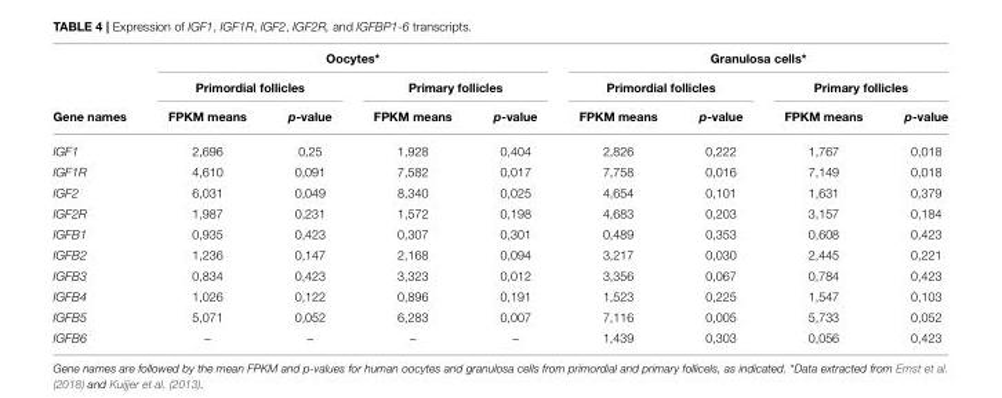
<table><thead><tr><td rowspan="3">Gene names</td><td colspan="4">Oocytes*</td><td colspan="4">Granulosa cells*</td></tr><tr><td colspan="2">Primordial follicles</td><td colspan="2">Primary follicles</td><td colspan="2">Primordial follicles</td><td colspan="2">Primary follicles</td></tr><tr><td>FPKM means</td><td>p-value</td><td>FPKM means</td><td>p-value</td><td>FPKM means</td><td>p-value</td><td>FPKM means</td><td>p-value</td></tr></thead><tbody><tr><td>IGF1</td><td>2,696</td><td>0,25</td><td>1,928</td><td>0,404</td><td>2,826</td><td>0,222</td><td>1,767</td><td>0,018</td></tr><tr><td>IGF1R</td><td>4,610</td><td>0,091</td><td>7,582</td><td>0,017</td><td>7,758</td><td>0,016</td><td>7,149</td><td>0,018</td></tr><tr><td>IGF2</td><td>6,031</td><td>0,049</td><td>8,340</td><td>0,025</td><td>4,654</td><td>0,101</td><td>1,631</td><td>0,379</td></tr><tr><td>IGF2R</td><td>1,987</td><td>0,231</td><td>1,572</td><td>0,198</td><td>4,683</td><td>0,203</td><td>3,157</td><td>0,184</td></tr><tr><td>IGFB1</td><td>0,935</td><td>0,423</td><td>0,307</td><td>0,301</td><td>0,489</td><td>0,353</td><td>0,608</td><td>0,423</td></tr><tr><td>IGFB2</td><td>1,236</td><td>0,147</td><td>2,168</td><td>0,094</td><td>3,217</td><td>0,030</td><td>2,445</td><td>0,221</td></tr><tr><td>IGFB3</td><td>0,834</td><td>0,423</td><td>3,323</td><td>0,012</td><td>3,356</td><td>0,067</td><td>0,784</td><td>0,423</td></tr><tr><td>IGFB4</td><td>1,026</td><td>0,122</td><td>0,896</td><td>0,191</td><td>1,523</td><td>0,225</td><td>1,547</td><td>0,103</td></tr><tr><td>IGFB5</td><td>5,071</td><td>0,052</td><td>6,283</td><td>0,007</td><td>7,116</td><td>0,005</td><td>5,733</td><td>0,052</td></tr><tr><td>IGFB6</td><td>–</td><td>–</td><td>–</td><td>–</td><td>1,439</td><td>0,303</td><td>0,056</td><td>0,423</td></tr></tbody></table>